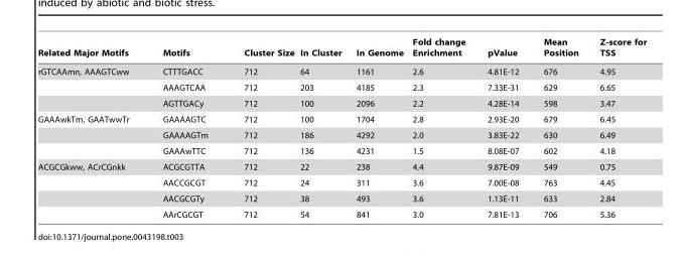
<table><thead><tr><td>Related Major Motifs</td><td>Motifs</td><td>Cluster Size</td><td>In Cluster</td><td>In Genome</td><td>Fold change Enrichment</td><td>pValue</td><td>Mean Position</td><td>Z-score for TSS</td></tr></thead><tbody><tr><td rowspan="3">rGTCAAmn, AAAGTCww</td><td>CTTTGACC</td><td>712</td><td>64</td><td>1161</td><td>2.6</td><td>4.81E-12</td><td>676</td><td>4.95</td></tr><tr><td>AAAGTCAA</td><td>712</td><td>203</td><td>4185</td><td>2.3</td><td>7.33E-31</td><td>629</td><td>6.65</td></tr><tr><td>AGTTGACy</td><td>712</td><td>100</td><td>2096</td><td>2.2</td><td>4.28E-14</td><td>598</td><td>3.47</td></tr><tr><td rowspan="3">GAAAwkTm, GAATwwTr</td><td>GAAAAGTC</td><td>712</td><td>100</td><td>1704</td><td>2.8</td><td>2.93E-20</td><td>679</td><td>6.45</td></tr><tr><td>GAAAAGTm</td><td>712</td><td>186</td><td>4292</td><td>2.0</td><td>3.83E-22</td><td>630</td><td>6.49</td></tr><tr><td>GAAAwTTC</td><td>712</td><td>136</td><td>4231</td><td>1.5</td><td>8.08E-07</td><td>602</td><td>4.18</td></tr><tr><td rowspan="4">ACGCGkww, ACrCGnkk</td><td>ACGCGTTA</td><td>712</td><td>22</td><td>238</td><td>4.4</td><td>9.87E-09</td><td>549</td><td>0.75</td></tr><tr><td>AACCGCGT</td><td>712</td><td>24</td><td>311</td><td>3.6</td><td>7.00E-08</td><td>763</td><td>4.45</td></tr><tr><td>AACGCGTy</td><td>712</td><td>38</td><td>493</td><td>3.6</td><td>1.13E-11</td><td>633</td><td>2.84</td></tr><tr><td>AArCGCGT</td><td>712</td><td>54</td><td>841</td><td>3.0</td><td>7.81E-13</td><td>706</td><td>5.36</td></tr></tbody></table>